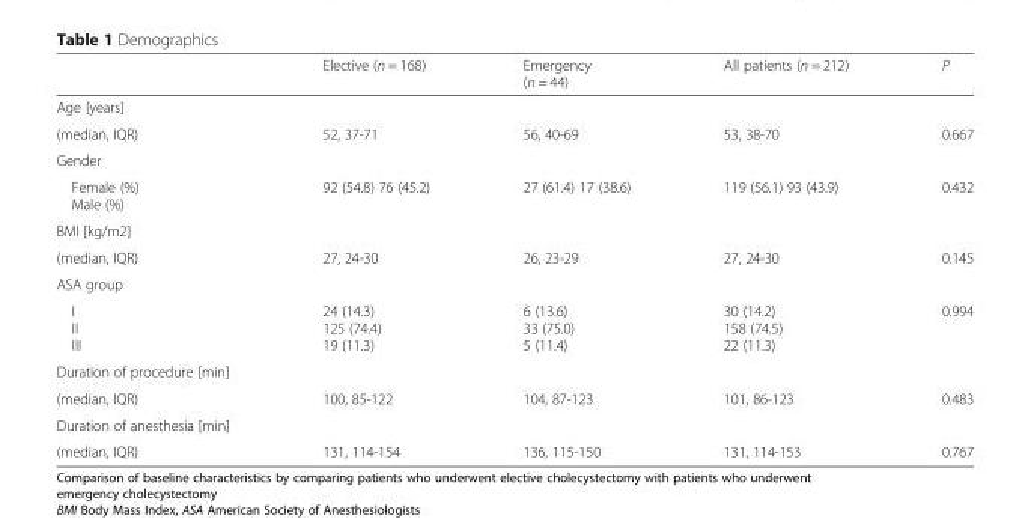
<table><thead><tr><td></td><td>Elective (n = 168)</td><td>Emergency (n = 44)</td><td>All patients (n = 212)</td><td>P</td></tr></thead><tbody><tr><td colspan="5">Age [years]</td></tr><tr><td>(median, IQR)</td><td>52, 37-71</td><td>56, 40-69</td><td>53, 38-70</td><td>0.667</td></tr><tr><td colspan="5">Gender</td></tr><tr><td>Female (%) Male (%)</td><td>92 (54.8) 76 (45.2)</td><td>27 (61.4) 17 (38.6)</td><td>119 (56.1) 93 (43.9)</td><td>0.432</td></tr><tr><td colspan="5">BMI [kg/m2]</td></tr><tr><td>(median, IQR)</td><td>27, 24-30</td><td>26, 23-29</td><td>27, 24-30</td><td>0.145</td></tr><tr><td colspan="5">ASA group</td></tr><tr><td>I II III</td><td>24 (14.3) 125 (74.4) 19 (11.3)</td><td>6 (13.6) 33 (75.0) 5 (11.4)</td><td>30 (14.2) 158 (74.5) 22 (11.3)</td><td>0.994</td></tr><tr><td colspan="5">Duration of procedure [min]</td></tr><tr><td>(median, IQR)</td><td>100, 85-122</td><td>104, 87-123</td><td>101, 86-123</td><td>0.483</td></tr><tr><td colspan="5">Duration of anesthesia [min]</td></tr><tr><td>(median, IQR)</td><td>131, 114-154</td><td>136, 115-150</td><td>131, 114-153</td><td>0.767</td></tr></tbody></table>